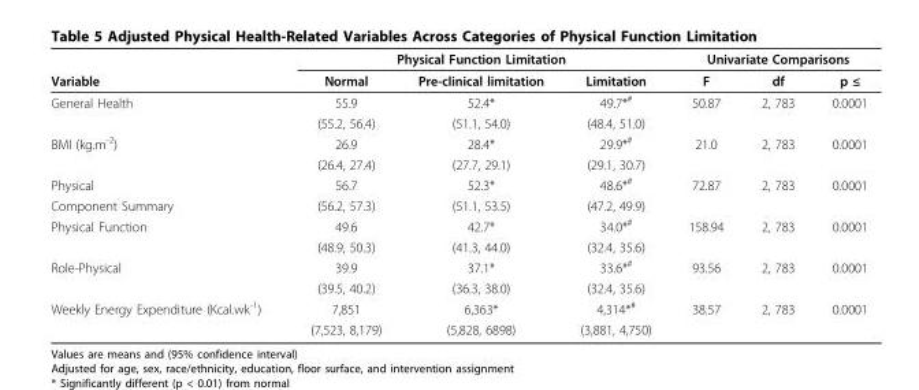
<table><thead><tr><td rowspan="2">Variable</td><td colspan="3">Physical Function Limitation</td><td colspan="3">Univariate Comparisons</td></tr><tr><td>Normal</td><td>Pre-clinical limitation</td><td>Limitation</td><td>F</td><td>df</td><td>p ≤</td></tr></thead><tbody><tr><td rowspan="2">General Health</td><td>55.9</td><td>52.4*</td><td>49.7*<sup>#</sup></td><td>50.87</td><td>2, 783</td><td>0.0001</td></tr><tr><td>(55.2, 56.4)</td><td>(51.1, 54.0)</td><td>(48.4, 51.0)</td><td></td><td></td><td></td></tr><tr><td rowspan="2">BMI (kg.m<sup>-2</sup>)</td><td>26.9</td><td>28.4*</td><td>29.9*<sup>#</sup></td><td>21.0</td><td>2, 783</td><td>0.0001</td></tr><tr><td>(26.4, 27.4)</td><td>(27.7, 29.1)</td><td>(29.1, 30.7)</td><td></td><td></td><td></td></tr><tr><td>Physical</td><td>56.7</td><td>52.3*</td><td>48.6*<sup>#</sup></td><td>72.87</td><td>2, 783</td><td>0.0001</td></tr><tr><td>Component Summary</td><td>(56.2, 57.3)</td><td>(51.1, 53.5)</td><td>(47.2, 49.9)</td><td></td><td></td><td></td></tr><tr><td rowspan="2">Physical Function</td><td>49.6</td><td>42.7*</td><td>34.0*<sup>#</sup></td><td>158.94</td><td>2, 783</td><td>0.0001</td></tr><tr><td>(48.9, 50.3)</td><td>(41.3, 44.0)</td><td>(32.4, 35.6)</td><td></td><td></td><td></td></tr><tr><td rowspan="2">Role-Physical</td><td>39.9</td><td>37.1*</td><td>33.6*<sup>#</sup></td><td>93.56</td><td>2, 783</td><td>0.0001</td></tr><tr><td>(39.5, 40.2)</td><td>(36.3, 38.0)</td><td>(32.4, 35.6)</td><td></td><td></td><td></td></tr><tr><td rowspan="2">Weekly Energy Expenditure (Kcal.wk<sup>-1</sup>)</td><td>7,851</td><td>6,363*</td><td>4,314*<sup>#</sup></td><td>38.57</td><td>2, 783</td><td>0.0001</td></tr><tr><td>(7,523, 8,179)</td><td>(5,828, 6898)</td><td>(3,881, 4,750)</td><td></td><td></td><td></td></tr></tbody></table>